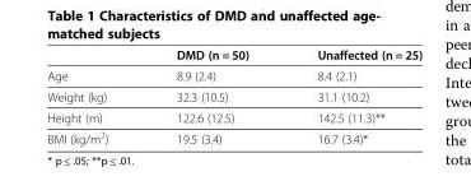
<table><thead><tr><td></td><td>DMD (n = 50)</td><td>Unaffected (n = 25)</td></tr></thead><tbody><tr><td>Age</td><td>8.9 (2.4)</td><td>8.4 (2.1)</td></tr><tr><td>Weight (kg)</td><td>32.3 (10.5)</td><td>31.1 (10.2)</td></tr><tr><td>Height (m)</td><td>122.6 (12.5)</td><td>142.5 (11.3)**</td></tr><tr><td>BMI (kg/m<sup>2</sup>)</td><td>19.5 (3.4)</td><td>16.7 (3.4)*</td></tr></tbody></table>